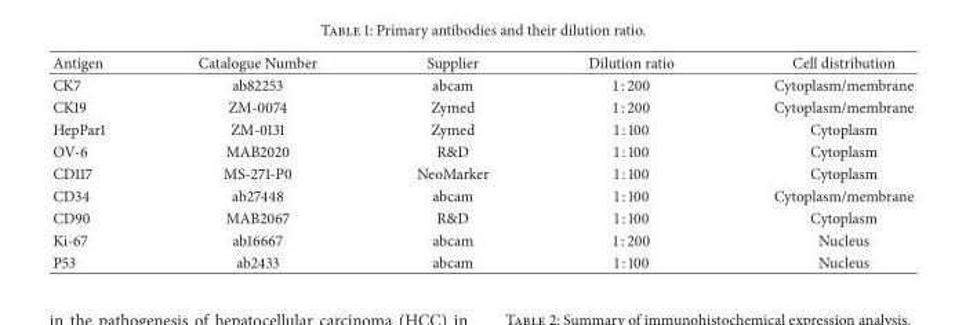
<table><thead><tr><td>Antigen</td><td>Catalogue Number</td><td>Supplier</td><td>Dilution ratio</td><td>Cell distribution</td></tr></thead><tbody><tr><td>CK7</td><td>ab82253</td><td>abcam</td><td>1 : 200</td><td>Cytoplasm/membrane</td></tr><tr><td>CK19</td><td>ZM-0074</td><td>Zymed</td><td>1 : 200</td><td>Cytoplasm/membrane</td></tr><tr><td>HepPar1</td><td>ZM-0131</td><td>Zymed</td><td>1 : 100</td><td>Cytoplasm</td></tr><tr><td>OV-6</td><td>MAB2020</td><td>R&amp;D</td><td>1 : 100</td><td>Cytoplasm</td></tr><tr><td>CD117</td><td>MS-271-P0</td><td>NeoMarker</td><td>1 : 100</td><td>Cytoplasm</td></tr><tr><td>CD34</td><td>ab27448</td><td>abcam</td><td>1 : 100</td><td>Cytoplasm/membrane</td></tr><tr><td>CD90</td><td>MAB2067</td><td>R&amp;D</td><td>1 : 100</td><td>Cytoplasm</td></tr><tr><td>Ki-67</td><td>ab16667</td><td>abcam</td><td>1 : 200</td><td>Nucleus</td></tr><tr><td>P53</td><td>ab2433</td><td>abcam</td><td>1 : 100</td><td>Nucleus</td></tr></tbody></table>